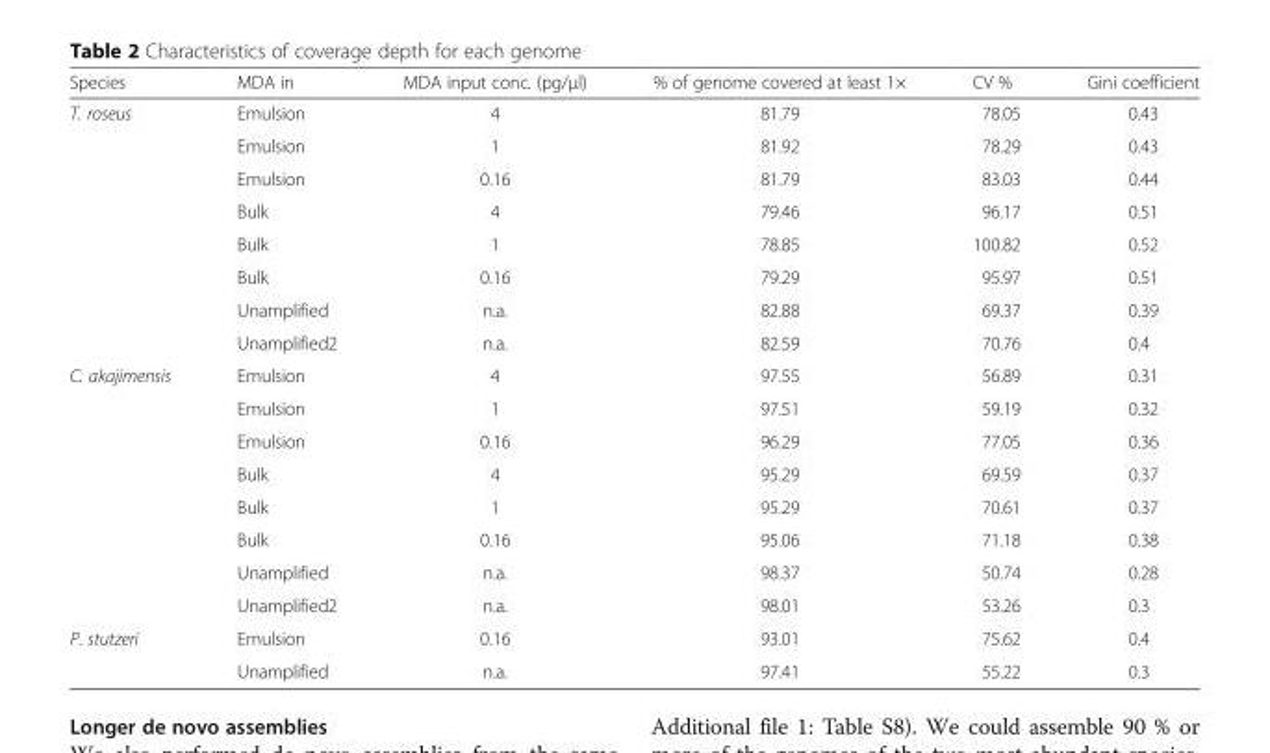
<table><thead><tr><td>Species</td><td>MDA in</td><td>MDA input conc. (pg/μl)</td><td>% of genome covered at least 1×</td><td>CV %</td><td>Gini coefficient</td></tr></thead><tbody><tr><td rowspan="8">T. roseus</td><td>Emulsion</td><td>4</td><td>81.79</td><td>78.05</td><td>0.43</td></tr><tr><td>Emulsion</td><td>1</td><td>81.92</td><td>78.29</td><td>0.43</td></tr><tr><td>Emulsion</td><td>0.16</td><td>81.79</td><td>83.03</td><td>0.44</td></tr><tr><td>Bulk</td><td>4</td><td>79.46</td><td>96.17</td><td>0.51</td></tr><tr><td>Bulk</td><td>1</td><td>78.85</td><td>100.82</td><td>0.52</td></tr><tr><td>Bulk</td><td>0.16</td><td>79.29</td><td>95.97</td><td>0.51</td></tr><tr><td>Unamplified</td><td>n.a.</td><td>82.88</td><td>69.37</td><td>0.39</td></tr><tr><td>Unamplified2</td><td>n.a.</td><td>82.59</td><td>70.76</td><td>0.4</td></tr><tr><td rowspan="8">C. akajimensis</td><td>Emulsion</td><td>4</td><td>97.55</td><td>56.89</td><td>0.31</td></tr><tr><td>Emulsion</td><td>1</td><td>97.51</td><td>59.19</td><td>0.32</td></tr><tr><td>Emulsion</td><td>0.16</td><td>96.29</td><td>77.05</td><td>0.36</td></tr><tr><td>Bulk</td><td>4</td><td>95.29</td><td>69.59</td><td>0.37</td></tr><tr><td>Bulk</td><td>1</td><td>95.29</td><td>70.61</td><td>0.37</td></tr><tr><td>Bulk</td><td>0.16</td><td>95.06</td><td>71.18</td><td>0.38</td></tr><tr><td>Unamplified</td><td>n.a.</td><td>98.37</td><td>50.74</td><td>0.28</td></tr><tr><td>Unamplified2</td><td>n.a.</td><td>98.01</td><td>53.26</td><td>0.3</td></tr><tr><td rowspan="2">P. stutzeri</td><td>Emulsion</td><td>0.16</td><td>93.01</td><td>75.62</td><td>0.4</td></tr><tr><td>Unamplified</td><td>n.a.</td><td>97.41</td><td>55.22</td><td>0.3</td></tr></tbody></table>